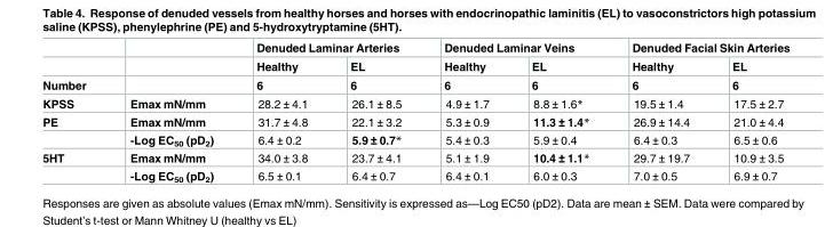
<table><thead><tr><td rowspan="3">Number</td><td rowspan="3"></td><td colspan="2">Denuded Laminar Arteries</td><td colspan="2">Denuded Laminar Veins</td><td colspan="2">Denuded Facial Skin Arteries</td></tr><tr><td rowspan="2">Healthy 6</td><td rowspan="2">EL 6</td><td rowspan="2">Healthy 6</td><td rowspan="2">EL 6</td><td rowspan="2">Healthy 6</td><td rowspan="2">EL 6</td></tr><tr></tr></thead><tbody><tr><td>KPSS</td><td>Emax mN/mm</td><td>28.2 ± 4.1</td><td>26.1 ± 8.5</td><td>4.9 ± 1.7</td><td>8.8 ± 1.6*</td><td>19.5 ± 1.4</td><td>17.5 ± 2.7</td></tr><tr><td rowspan="2">PE</td><td>Emax mN/mm</td><td>31.7 ± 4.8</td><td>22.1 ± 3.2</td><td>5.3 ± 0.9</td><td>11.3 ± 1.4*</td><td>26.9 ± 14.4</td><td>21.0 ± 4.4</td></tr><tr><td>-Log EC<sub>50</sub> (pD<sub>2</sub>)</td><td>6.4 ± 0.2</td><td>5.9 ± 0.7*</td><td>5.4 ± 0.3</td><td>5.9 ± 0.4</td><td>6.4 ± 0.3</td><td>6.5 ± 0.6</td></tr><tr><td rowspan="2">5HT</td><td>Emax mN/mm</td><td>34.0 ± 3.8</td><td>23.7 ± 4.1</td><td>5.1 ± 1.9</td><td>10.4 ± 1.1*</td><td>29.7 ± 19.7</td><td>10.9 ± 3.5</td></tr><tr><td>-Log EC<sub>50</sub> (pD<sub>2</sub>)</td><td>6.5 ± 0.1</td><td>6.4 ± 0.7</td><td>6.4 ± 0.1</td><td>6.0 ± 0.3</td><td>7.0 ± 0.5</td><td>6.9 ± 0.7</td></tr></tbody></table>